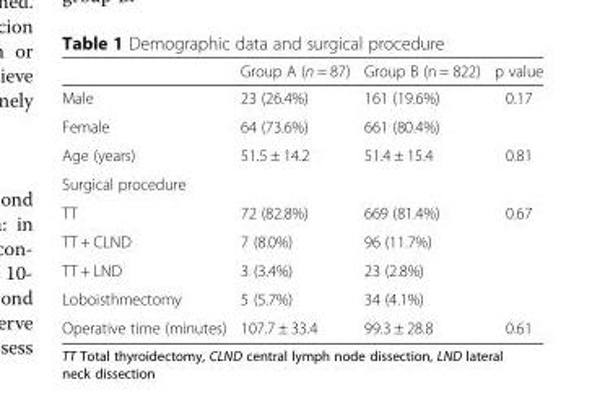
<table><thead><tr><td></td><td>Group A (n = 87)</td><td>Group B (n = 822)</td><td>p value</td></tr></thead><tbody><tr><td>Male</td><td>23 (26.4%)</td><td>161 (19.6%)</td><td>0.17</td></tr><tr><td>Female</td><td>64 (73.6%)</td><td>661 (80.4%)</td><td></td></tr><tr><td>Age (years)</td><td>51.5 ± 14.2</td><td>51.4 ± 15.4</td><td>0.81</td></tr><tr><td colspan="4">Surgical procedure</td></tr><tr><td>TT</td><td>72 (82.8%)</td><td>669 (81.4%)</td><td rowspan="4">0.67</td></tr><tr><td>TT + CLND</td><td>7 (8.0%)</td><td>96 (11.7%)</td></tr><tr><td>TT + LND</td><td>3 (3.4%)</td><td>23 (2.8%)</td></tr><tr><td>Loboisthmectomy</td><td>5 (5.7%)</td><td>34 (4.1%)</td></tr><tr><td>Operative time (minutes)</td><td>107.7 ± 33.4</td><td>99.3 ± 28.8</td><td>0.61</td></tr></tbody></table>